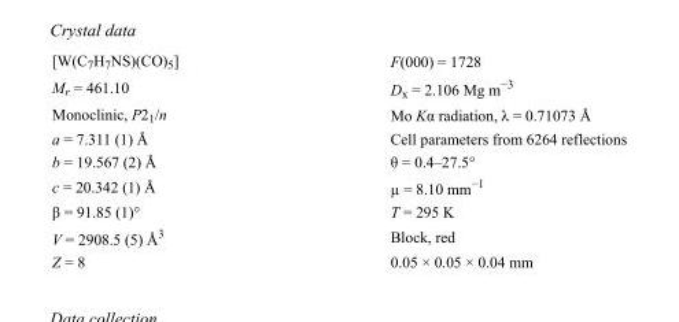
<table><tbody><tr><td>[W(C<sub>7</sub>H<sub>7</sub>NS)(CO)<sub>5</sub>]</td><td>F(000) = 1728</td></tr><tr><td>M<sub>r</sub> = 461.10</td><td>D<sub>x</sub> = 2.106 Mg m<sup>−3</sup></td></tr><tr><td>Monoclinic, P2<sub>1</sub>/n</td><td>Mo Kα radiation, λ = 0.71073 Å</td></tr><tr><td>a = 7.311 (1) Å</td><td>Cell parameters from 6264 reflections</td></tr><tr><td>b = 19.567 (2) Å</td><td>θ = 0.4–27.5°</td></tr><tr><td>c = 20.342 (1) Å</td><td>µ = 8.10 mm<sup>−1</sup></td></tr><tr><td>β = 91.85 (1)°</td><td>T = 295 K</td></tr><tr><td>V = 2908.5 (5) Å<sup>3</sup></td><td>Block, red</td></tr><tr><td>Z = 8</td><td>0.05 × 0.05 × 0.04 mm</td></tr></tbody></table>